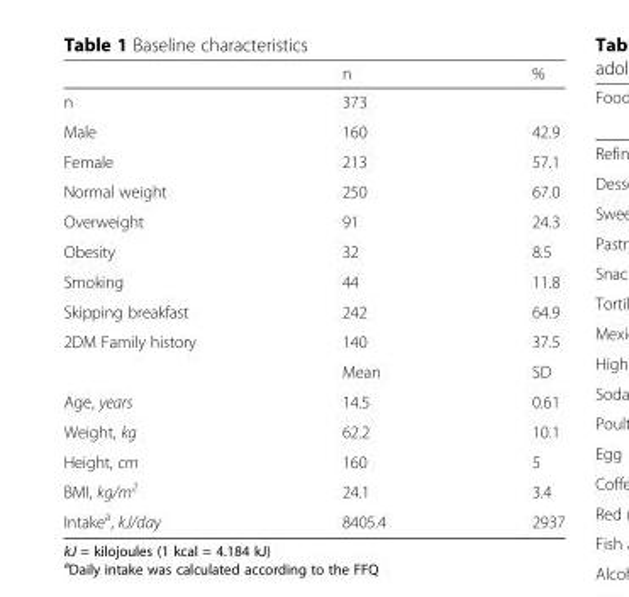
<table><thead><tr><td></td><td>n</td><td>%</td></tr></thead><tbody><tr><td>n</td><td>373</td><td></td></tr><tr><td>Male</td><td>160</td><td>42.9</td></tr><tr><td>Female</td><td>213</td><td>57.1</td></tr><tr><td>Normal weight</td><td>250</td><td>67.0</td></tr><tr><td>Overweight</td><td>91</td><td>24.3</td></tr><tr><td>Obesity</td><td>32</td><td>8.5</td></tr><tr><td>Smoking</td><td>44</td><td>11.8</td></tr><tr><td>Skipping breakfast</td><td>242</td><td>64.9</td></tr><tr><td rowspan="2">2DM Family history</td><td>140</td><td>37.5</td></tr><tr><td>Mean</td><td>SD</td></tr><tr><td>Age, years</td><td>14.5</td><td>0.61</td></tr><tr><td>Weight, kg</td><td>62.2</td><td>10.1</td></tr><tr><td>Height, cm</td><td>160</td><td>5</td></tr><tr><td>BMI, kg/m<sup>2</sup></td><td>24.1</td><td>3.4</td></tr><tr><td>Intake<sup>a</sup>, kJ/day</td><td>8405.4</td><td>2937</td></tr></tbody></table>